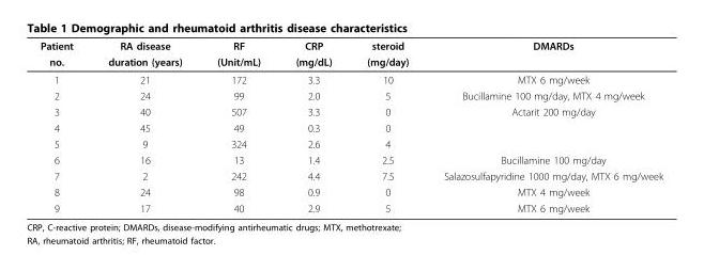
<table><thead><tr><td rowspan="2">Patient no.</td><td rowspan="2">RA disease duration (years)</td><td rowspan="2">RF (Unit/mL)</td><td rowspan="2">CRP (mg/dL)</td><td rowspan="2">steroid (mg/day)</td><td rowspan="2">DMARDs</td></tr><tr></tr></thead><tbody><tr><td>1</td><td>21</td><td>172</td><td>3.3</td><td>10</td><td>MTX 6 mg/week</td></tr><tr><td>2</td><td>24</td><td>99</td><td>2.0</td><td>5</td><td>Bucillamine 100 mg/day, MTX 4 mg/week</td></tr><tr><td>3</td><td>40</td><td>507</td><td>3.3</td><td>0</td><td>Actarit 200 mg/day</td></tr><tr><td>4</td><td>45</td><td>49</td><td>0.3</td><td>0</td><td></td></tr><tr><td>5</td><td>9</td><td>324</td><td>2.6</td><td>4</td><td></td></tr><tr><td>6</td><td>16</td><td>13</td><td>1.4</td><td>2.5</td><td>Bucillamine 100 mg/day</td></tr><tr><td>7</td><td>2</td><td>242</td><td>4.4</td><td>7.5</td><td>Salazosulfapyridine 1000 mg/day, MTX 6 mg/week</td></tr><tr><td>8</td><td>24</td><td>98</td><td>0.9</td><td>0</td><td>MTX 4 mg/week</td></tr><tr><td>9</td><td>17</td><td>40</td><td>2.9</td><td>5</td><td>MTX 6 mg/week</td></tr></tbody></table>